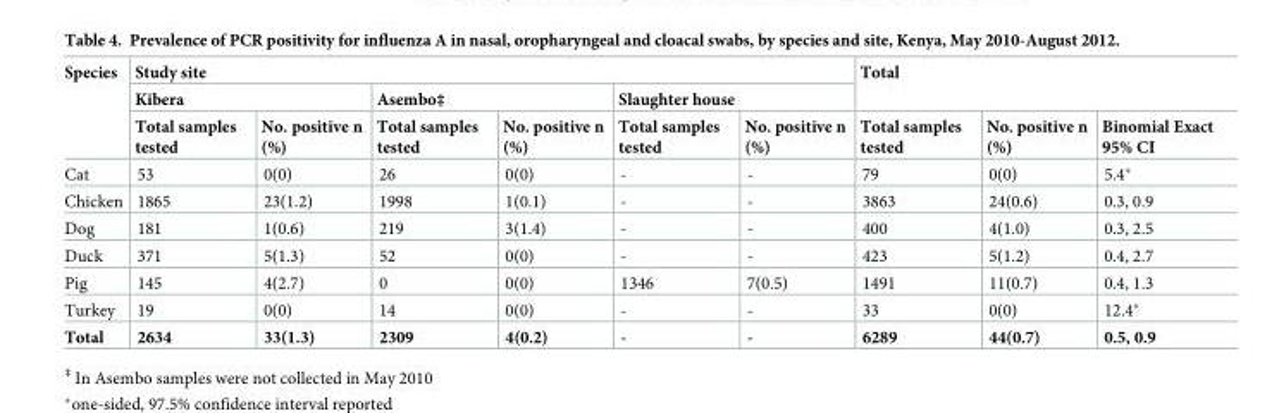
<table><thead><tr><td rowspan="3">Species</td><td colspan="6">Study site</td><td rowspan="2" colspan="3">Total</td></tr><tr><td colspan="2">Kibera</td><td colspan="2">Asembo‡</td><td colspan="2">Slaughter house</td></tr><tr><td>Total samples tested</td><td>No. positive n (%)</td><td>Total samples tested</td><td>No. positive n (%)</td><td>Total samples tested</td><td>No. positive n (%)</td><td>Total samples tested</td><td>No. positive n (%)</td><td>Binomial Exact 95% CI</td></tr></thead><tbody><tr><td>Cat</td><td>53</td><td>0(0)</td><td>26</td><td>0(0)</td><td>-</td><td>-</td><td>79</td><td>0(0)</td><td>5.4*</td></tr><tr><td>Chicken</td><td>1865</td><td>23(1.2)</td><td>1998</td><td>1(0.1)</td><td>-</td><td>-</td><td>3863</td><td>24(0.6)</td><td>0.3, 0.9</td></tr><tr><td>Dog</td><td>181</td><td>1(0.6)</td><td>219</td><td>3(1.4)</td><td>-</td><td>-</td><td>400</td><td>4(1.0)</td><td>0.3, 2.5</td></tr><tr><td>Duck</td><td>371</td><td>5(1.3)</td><td>52</td><td>0(0)</td><td>-</td><td>-</td><td>423</td><td>5(1.2)</td><td>0.4, 2.7</td></tr><tr><td>Pig</td><td>145</td><td>4(2.7)</td><td>0</td><td>0(0)</td><td>1346</td><td>7(0.5)</td><td>1491</td><td>11(0.7)</td><td>0.4, 1.3</td></tr><tr><td>Turkey</td><td>19</td><td>0(0)</td><td>14</td><td>0(0)</td><td>-</td><td>-</td><td>33</td><td>0(0)</td><td>12.4*</td></tr><tr><td>Total</td><td>2634</td><td>33(1.3)</td><td>2309</td><td>4(0.2)</td><td>-</td><td>-</td><td>6289</td><td>44(0.7)</td><td>0.5, 0.9</td></tr></tbody></table>